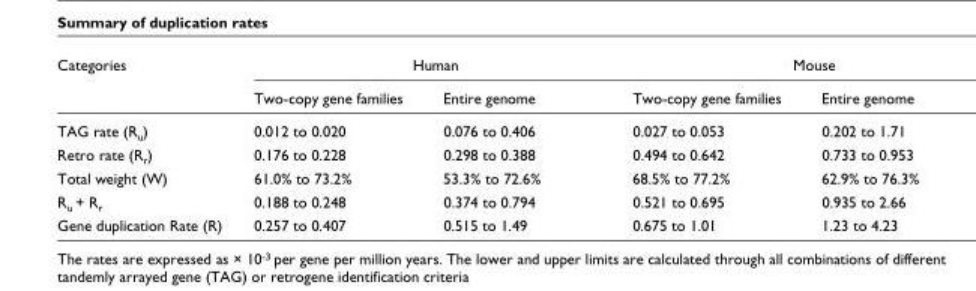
<table><thead><tr><td rowspan="2">Categories</td><td colspan="2">Human</td><td colspan="2">Mouse</td></tr><tr><td>Two-copy gene families</td><td>Entire genome</td><td>Two-copy gene families</td><td>Entire genome</td></tr></thead><tbody><tr><td>TAG rate (R<sub>u</sub>)</td><td>0.012 to 0.020</td><td>0.076 to 0.406</td><td>0.027 to 0.053</td><td>0.202 to 1.71</td></tr><tr><td>Retro rate (R<sub>r</sub>)</td><td>0.176 to 0.228</td><td>0.298 to 0.388</td><td>0.494 to 0.642</td><td>0.733 to 0.953</td></tr><tr><td>Total weight (W)</td><td>61.0% to 73.2%</td><td>53.3% to 72.6%</td><td>68.5% to 77.2%</td><td>62.9% to 76.3%</td></tr><tr><td>R<sub>u</sub> + R<sub>r</sub></td><td>0.188 to 0.248</td><td>0.374 to 0.794</td><td>0.521 to 0.695</td><td>0.935 to 2.66</td></tr><tr><td>Gene duplication Rate (R)</td><td>0.257 to 0.407</td><td>0.515 to 1.49</td><td>0.675 to 1.01</td><td>1.23 to 4.23</td></tr></tbody></table>